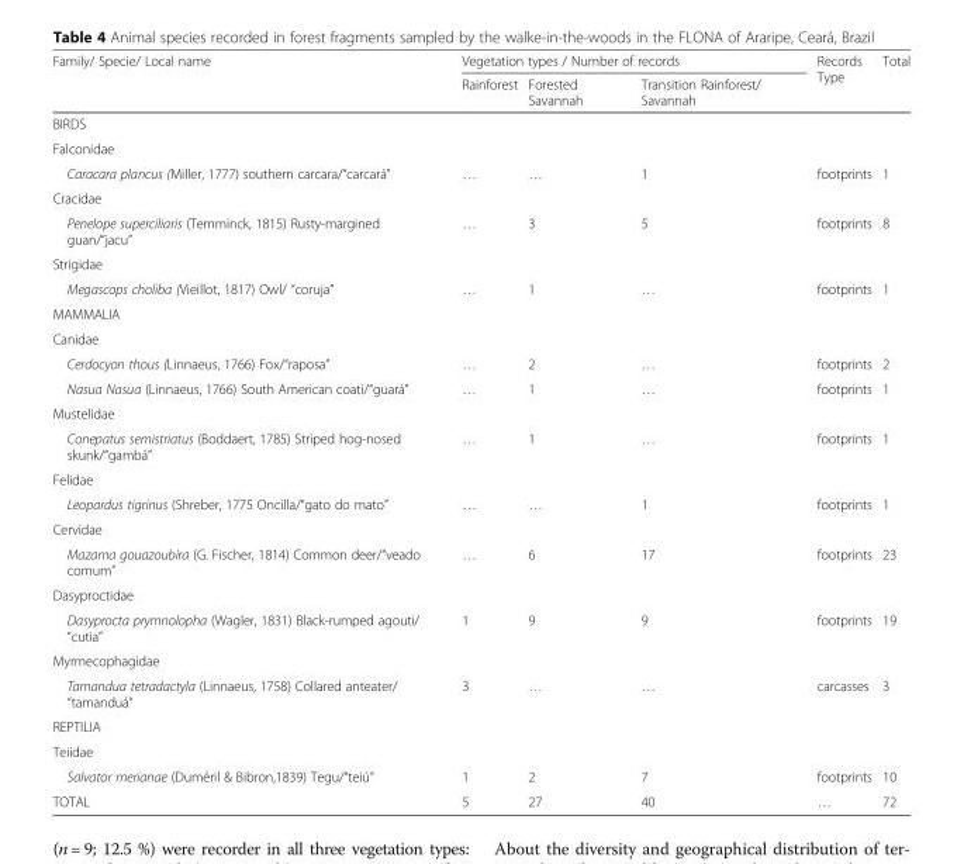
<table><thead><tr><td rowspan="2">Family/ Specie/ Local name</td><td colspan="3">Vegetation types / Number of records</td><td rowspan="2">Records Type</td><td rowspan="2">Total</td></tr><tr><td>Rainforest</td><td>Forested Savannah</td><td>Transition Rainforest/ Savannah</td></tr></thead><tbody><tr><td colspan="6">BIRDS</td></tr><tr><td colspan="6">Falconidae</td></tr><tr><td>Caracara plancus (Miller, 1777) southern carcara/“carcará”</td><td>…</td><td>…</td><td>1</td><td>footprints</td><td>1</td></tr><tr><td colspan="6">Cracidae</td></tr><tr><td>Penelope superciliaris (Temminck, 1815) Rusty-margined guan/“jacu”</td><td>…</td><td>3</td><td>5</td><td>footprints</td><td>8</td></tr><tr><td colspan="6">Strigidae</td></tr><tr><td>Megascops choliba (Vieillot, 1817) Owl/ “coruja”</td><td>…</td><td>1</td><td>…</td><td>footprints</td><td>1</td></tr><tr><td colspan="6">MAMMALIA</td></tr><tr><td colspan="6">Canidae</td></tr><tr><td>Cerdocyon thous (Linnaeus, 1766) Fox/“raposa”</td><td>…</td><td>2</td><td>…</td><td>footprints</td><td>2</td></tr><tr><td>Nasua Nasua (Linnaeus, 1766) South American coati/“guará”</td><td>…</td><td>1</td><td>…</td><td>footprints</td><td>1</td></tr><tr><td colspan="6">Mustelidae</td></tr><tr><td>Conepatus semistriatus (Boddaert, 1785) Striped hog-nosed skunk/“gambá”</td><td>…</td><td>1</td><td>…</td><td>footprints</td><td>1</td></tr><tr><td colspan="6">Felidae</td></tr><tr><td>Leopardus tigrinus (Shreber, 1775 Oncilla/“gato do mato”</td><td>…</td><td>…</td><td>1</td><td>footprints</td><td>1</td></tr><tr><td colspan="6">Cervidae</td></tr><tr><td>Mazama gouazoubira (G. Fischer, 1814) Common deer/“veado comum”</td><td>…</td><td>6</td><td>17</td><td>footprints</td><td>23</td></tr><tr><td colspan="6">Dasyproctidae</td></tr><tr><td>Dasyprocta prymnolopha (Wagler, 1831) Black-rumped agouti/ “cutia”</td><td>1</td><td>9</td><td>9</td><td>footprints</td><td>19</td></tr><tr><td colspan="6">Myrmecophagidae</td></tr><tr><td>Tamandua tetradactyla (Linnaeus, 1758) Collared anteater/ “tamanduá”</td><td>3</td><td>…</td><td>…</td><td>carcasses</td><td>3</td></tr><tr><td colspan="6">REPTILIA</td></tr><tr><td colspan="6">Teiidae</td></tr><tr><td>Salvator merianae (Duméril &amp; Bibron,1839) Tegu/“teiú”</td><td>1</td><td>2</td><td>7</td><td>footprints</td><td>10</td></tr><tr><td>TOTAL</td><td>5</td><td>27</td><td>40</td><td>…</td><td>72</td></tr></tbody></table>